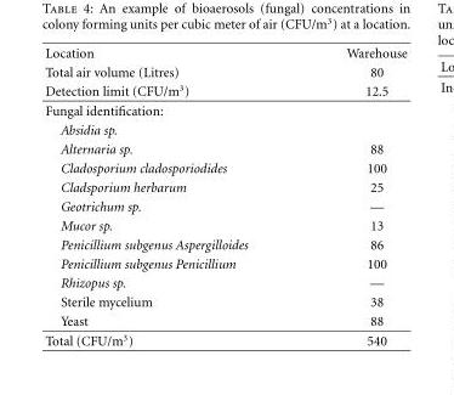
<table><thead><tr><td rowspan="3">Location Total air volume (Litres) Detection limit (CFU/m<sup>3</sup>)</td><td rowspan="3">Warehouse 80 12.5</td></tr><tr></tr><tr></tr></thead><tbody><tr><td colspan="2">Fungal identification:</td></tr><tr><td colspan="2">Absidia sp.</td></tr><tr><td>Alternaria sp.</td><td>88</td></tr><tr><td>Cladosporium cladosporiodides</td><td>100</td></tr><tr><td>Cladsporium herbarum</td><td>25</td></tr><tr><td>Geotrichum sp.</td><td>—</td></tr><tr><td>Mucor sp.</td><td>13</td></tr><tr><td>Penicillium subgenus Aspergilloides</td><td>86</td></tr><tr><td>Penicillium subgenus Penicillium</td><td>100</td></tr><tr><td>Rhizopus sp.</td><td>—</td></tr><tr><td>Sterile mycelium</td><td>38</td></tr><tr><td>Yeast</td><td>88</td></tr><tr><td>Total (CFU/m<sup>3</sup>)</td><td>540</td></tr></tbody></table>